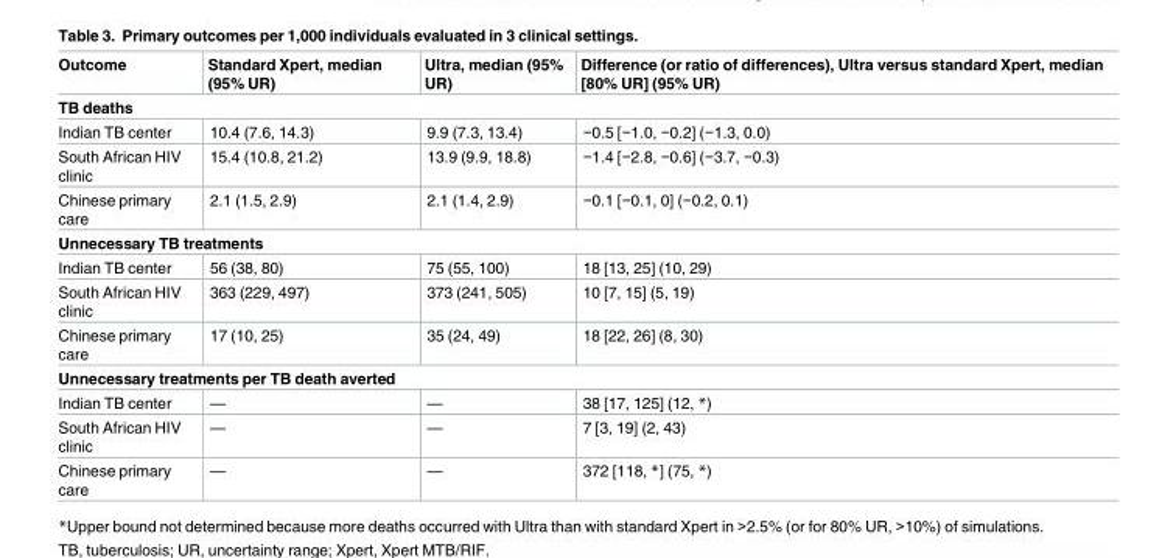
<table><thead><tr><td>Outcome</td><td>Standard Xpert, median (95% UR)</td><td>Ultra, median (95% UR)</td><td>Difference (or ratio of differences), Ultra versus standard Xpert, median [80% UR] (95% UR)</td></tr></thead><tbody><tr><td colspan="4">TB deaths</td></tr><tr><td>Indian TB center</td><td>10.4 (7.6, 14.3)</td><td>9.9 (7.3, 13.4)</td><td>−0.5 [−1.0, −0.2] (−1.3, 0.0)</td></tr><tr><td>South African HIV clinic</td><td>15.4 (10.8, 21.2)</td><td>13.9 (9.9, 18.8)</td><td>−1.4 [−2.8, −0.6] (−3.7, −0.3)</td></tr><tr><td>Chinese primary care</td><td>2.1 (1.5, 2.9)</td><td>2.1 (1.4, 2.9)</td><td>−0.1 [−0.1, 0] (−0.2, 0.1)</td></tr><tr><td colspan="4">Unnecessary TB treatments</td></tr><tr><td>Indian TB center</td><td>56 (38, 80)</td><td>75 (55, 100)</td><td>18 [13, 25] (10, 29)</td></tr><tr><td>South African HIV clinic</td><td>363 (229, 497)</td><td>373 (241, 505)</td><td>10 [7, 15] (5, 19)</td></tr><tr><td>Chinese primary care</td><td>17 (10, 25)</td><td>35 (24, 49)</td><td>18 [22, 26] (8, 30)</td></tr><tr><td colspan="4">Unnecessary treatments per TB death averted</td></tr><tr><td>Indian TB center</td><td>—</td><td>—</td><td>38 [17, 125] (12, *)</td></tr><tr><td>South African HIV clinic</td><td>—</td><td>—</td><td>7 [3, 19] (2, 43)</td></tr><tr><td>Chinese primary care</td><td>—</td><td>—</td><td>372 [118, *] (75, *)</td></tr></tbody></table>